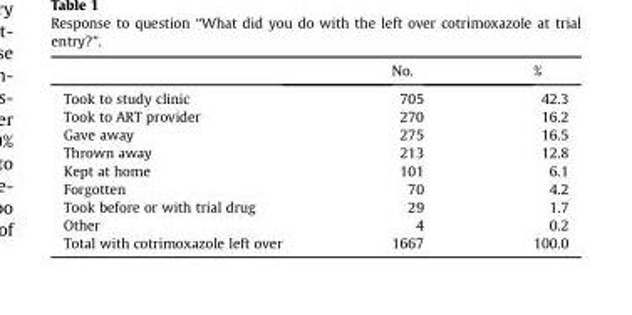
<table><thead><tr><td></td><td>No.</td><td>%</td></tr></thead><tbody><tr><td>Took to study clinic</td><td>705</td><td>42.3</td></tr><tr><td>Took to ART provider</td><td>270</td><td>16.2</td></tr><tr><td>Gave away</td><td>275</td><td>16.5</td></tr><tr><td>Thrown away</td><td>213</td><td>12.8</td></tr><tr><td>Kept at home</td><td>101</td><td>6.1</td></tr><tr><td>Forgotten</td><td>70</td><td>4.2</td></tr><tr><td>Took before or with trial drug</td><td>29</td><td>1.7</td></tr><tr><td>Other</td><td>4</td><td>0.2</td></tr><tr><td>Total with cotrimoxazole left over</td><td>1667</td><td>100.0</td></tr></tbody></table>